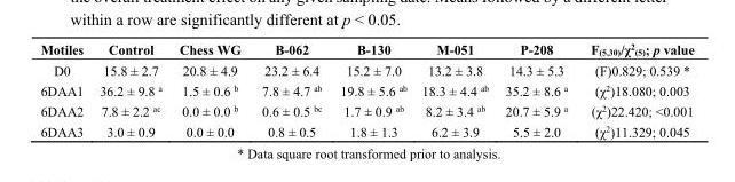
<table><thead><tr><td>Motiles</td><td>Control</td><td>Chess WG</td><td>B-062</td><td>B-130</td><td>M-051</td><td>P-208</td><td>F<sub>(5,30)</sub>/χ<sup>2</sup><sub>(5)</sub>; p value</td></tr></thead><tbody><tr><td>D0</td><td>15.8 ± 2.7</td><td>20.8 ± 4.9</td><td>23.2 ± 6.4</td><td>15.2 ± 7.0</td><td>13.2 ± 3.8</td><td>14.3 ± 5.3</td><td>(F)0.829; 0.539 *</td></tr><tr><td>6DAA1</td><td>36.2 ± 9.8 <sup>a</sup></td><td>1.5 ± 0.6 <sup>b</sup></td><td>7.8 ± 4.7 <sup>ab</sup></td><td>19.8 ± 5.6 <sup>ab</sup></td><td>18.3 ± 4.4 <sup>ab</sup></td><td>35.2 ± 8.6 <sup>a</sup></td><td>(χ<sup>2</sup>)18.080; 0.003</td></tr><tr><td>6DAA2</td><td>7.8 ± 2.2 <sup>ac</sup></td><td>0.0 ± 0.0 <sup>b</sup></td><td>0.6 ± 0.5 <sup>bc</sup></td><td>1.7 ± 0.9 <sup>ab</sup></td><td>8.2 ± 3.4 <sup>ab</sup></td><td>20.7 ± 5.9 <sup>a</sup></td><td>(χ<sup>2</sup>)22.420; &lt;0.001</td></tr><tr><td>6DAA3</td><td>3.0 ± 0.9</td><td>0.0 ± 0.0</td><td>0.8 ± 0.5</td><td>1.8 ± 1.3</td><td>6.2 ± 3.9</td><td>5.5 ± 2.0</td><td>(χ<sup>2</sup>)11.329; 0.045</td></tr></tbody></table>